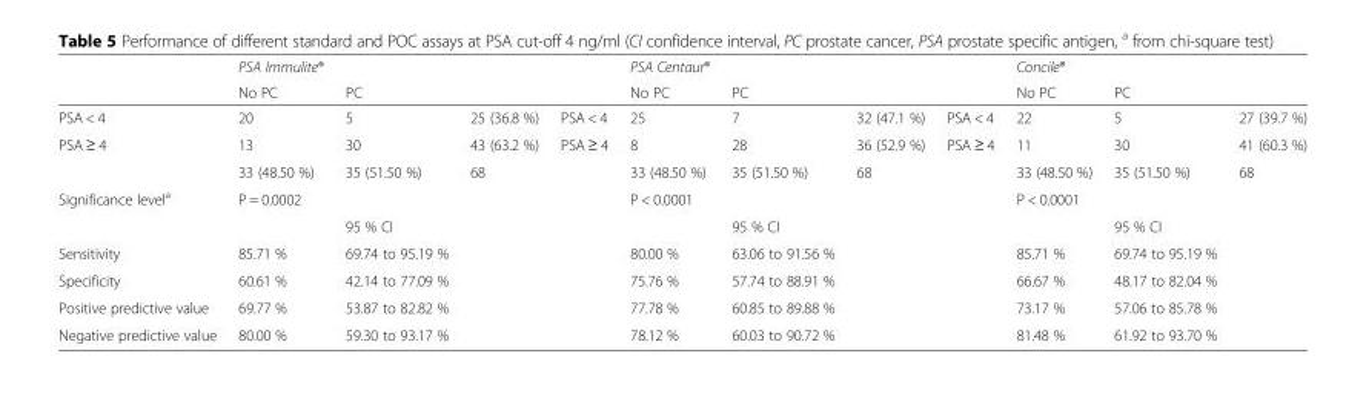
<table><thead><tr><td rowspan="2"></td><td rowspan="2">PSA Immulite® No PC</td><td rowspan="2">PC</td><td rowspan="2"></td><td rowspan="2"></td><td rowspan="2">PSA Centaur® No PC</td><td rowspan="2">PC</td><td rowspan="2"></td><td rowspan="2"></td><td rowspan="2">Concile® No PC</td><td rowspan="2">PC</td><td rowspan="2"></td></tr><tr></tr></thead><tbody><tr><td>PSA &lt; 4</td><td>20</td><td>5</td><td>25 (36.8 %)</td><td>PSA &lt; 4</td><td>25</td><td>7</td><td>32 (47.1 %)</td><td>PSA &lt; 4</td><td>22</td><td>5</td><td>27 (39.7 %)</td></tr><tr><td rowspan="2">PSA ≥ 4</td><td>13</td><td>30</td><td>43 (63.2 %)</td><td>PSA ≥ 4</td><td>8</td><td>28</td><td>36 (52.9 %)</td><td>PSA ≥ 4</td><td>11</td><td>30</td><td>41 (60.3 %)</td></tr><tr><td>33 (48.50 %)</td><td>35 (51.50 %)</td><td>68</td><td></td><td>33 (48.50 %)</td><td>35 (51.50 %)</td><td>68</td><td></td><td>33 (48.50 %)</td><td>35 (51.50 %)</td><td>68</td></tr><tr><td rowspan="2">Significance level<sup>a</sup></td><td>P = 0.0002</td><td></td><td></td><td></td><td>P &lt; 0.0001</td><td></td><td></td><td></td><td>P &lt; 0.0001</td><td></td><td></td></tr><tr><td></td><td>95 % CI</td><td></td><td></td><td></td><td>95 % CI</td><td></td><td></td><td></td><td>95 % CI</td><td></td></tr><tr><td>Sensitivity</td><td>85.71 %</td><td>69.74 to 95.19 %</td><td></td><td></td><td>80.00 %</td><td>63.06 to 91.56 %</td><td></td><td></td><td>85.71 %</td><td>69.74 to 95.19 %</td><td></td></tr><tr><td>Specificity</td><td>60.61 %</td><td>42.14 to 77.09 %</td><td></td><td></td><td>75.76 %</td><td>57.74 to 88.91 %</td><td></td><td></td><td>66.67 %</td><td>48.17 to 82.04 %</td><td></td></tr><tr><td>Positive predictive value</td><td>69.77 %</td><td>53.87 to 82.82 %</td><td></td><td></td><td>77.78 %</td><td>60.85 to 89.88 %</td><td></td><td></td><td>73.17 %</td><td>57.06 to 85.78 %</td><td></td></tr><tr><td>Negative predictive value</td><td>80.00 %</td><td>59.30 to 93.17 %</td><td></td><td></td><td>78.12 %</td><td>60.03 to 90.72 %</td><td></td><td></td><td>81.48 %</td><td>61.92 to 93.70 %</td><td></td></tr></tbody></table>